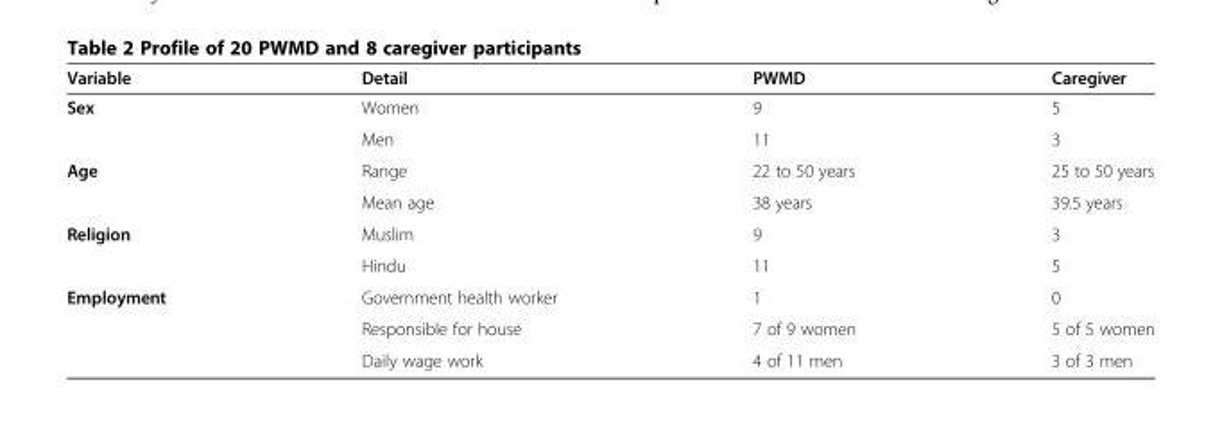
<table><thead><tr><td>Variable</td><td>Detail</td><td>PWMD</td><td>Caregiver</td></tr></thead><tbody><tr><td rowspan="2">Sex</td><td>Women</td><td>9</td><td>5</td></tr><tr><td>Men</td><td>11</td><td>3</td></tr><tr><td rowspan="2">Age</td><td>Range</td><td>22 to 50 years</td><td>25 to 50 years</td></tr><tr><td>Mean age</td><td>38 years</td><td>39.5 years</td></tr><tr><td rowspan="2">Religion</td><td>Muslim</td><td>9</td><td>3</td></tr><tr><td>Hindu</td><td>11</td><td>5</td></tr><tr><td rowspan="3">Employment</td><td>Government health worker</td><td>1</td><td>0</td></tr><tr><td>Responsible for house</td><td>7 of 9 women</td><td>5 of 5 women</td></tr><tr><td>Daily wage work</td><td>4 of 11 men</td><td>3 of 3 men</td></tr></tbody></table>